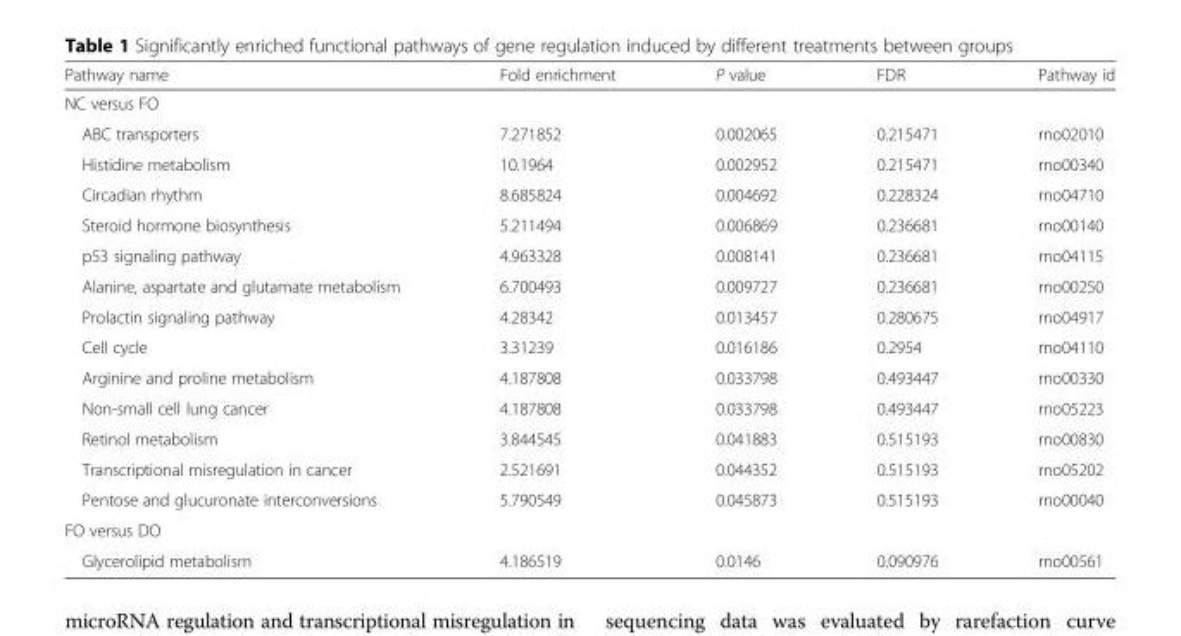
<table><thead><tr><td>Pathway name</td><td>Fold enrichment</td><td>P value</td><td>FDR</td><td>Pathway id</td></tr></thead><tbody><tr><td colspan="5">NC versus FO</td></tr><tr><td>ABC transporters</td><td>7.271852</td><td>0.002065</td><td>0.215471</td><td>rno02010</td></tr><tr><td>Histidine metabolism</td><td>10.1964</td><td>0.002952</td><td>0.215471</td><td>rno00340</td></tr><tr><td>Circadian rhythm</td><td>8.685824</td><td>0.004692</td><td>0.228324</td><td>rno04710</td></tr><tr><td>Steroid hormone biosynthesis</td><td>5.211494</td><td>0.006869</td><td>0.236681</td><td>rno00140</td></tr><tr><td>p53 signaling pathway</td><td>4.963328</td><td>0.008141</td><td>0.236681</td><td>rno04115</td></tr><tr><td>Alanine, aspartate and glutamate metabolism</td><td>6.700493</td><td>0.009727</td><td>0.236681</td><td>rno00250</td></tr><tr><td>Prolactin signaling pathway</td><td>4.28342</td><td>0.013457</td><td>0.280675</td><td>rno04917</td></tr><tr><td>Cell cycle</td><td>3.31239</td><td>0.016186</td><td>0.2954</td><td>rno04110</td></tr><tr><td>Arginine and proline metabolism</td><td>4.187808</td><td>0.033798</td><td>0.493447</td><td>rno00330</td></tr><tr><td>Non-small cell lung cancer</td><td>4.187808</td><td>0.033798</td><td>0.493447</td><td>rno05223</td></tr><tr><td>Retinol metabolism</td><td>3.844545</td><td>0.041883</td><td>0.515193</td><td>rno00830</td></tr><tr><td>Transcriptional misregulation in cancer</td><td>2.521691</td><td>0.044352</td><td>0.515193</td><td>rno05202</td></tr><tr><td>Pentose and glucuronate interconversions</td><td>5.790549</td><td>0.045873</td><td>0.515193</td><td>rno00040</td></tr><tr><td colspan="5">FO versus DO</td></tr><tr><td>Glycerolipid metabolism</td><td>4.186519</td><td>0.0146</td><td>0.090976</td><td>rno00561</td></tr></tbody></table>